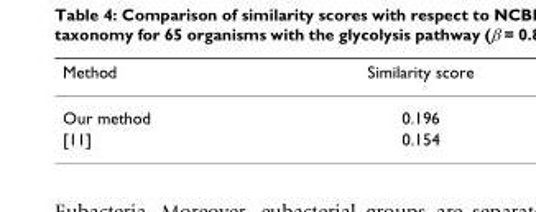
<table><thead><tr><td>Method</td><td>Similarity score</td></tr></thead><tbody><tr><td>Our method</td><td>0.196</td></tr><tr><td>[11]</td><td>0.154</td></tr></tbody></table>